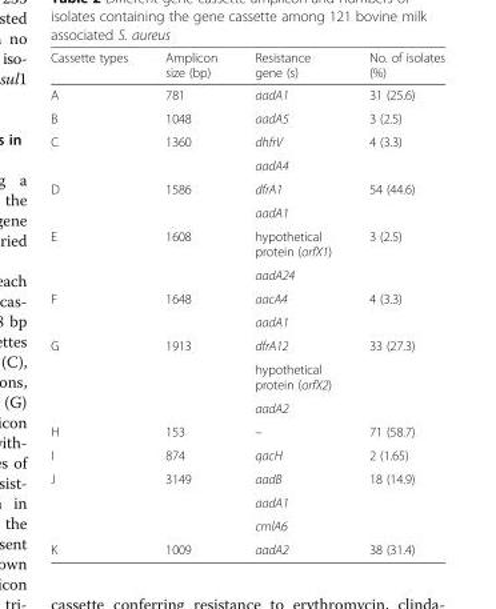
<table><thead><tr><td>Cassette types</td><td>Amplicon size (bp)</td><td>Resistance gene (s)</td><td>No. of isolates (%)</td></tr></thead><tbody><tr><td>A</td><td>781</td><td>aadA1</td><td>31 (25.6)</td></tr><tr><td>B</td><td>1048</td><td>aadA5</td><td>3 (2.5)</td></tr><tr><td rowspan="2">C</td><td rowspan="2">1360</td><td>dhfrV</td><td rowspan="2">4 (3.3)</td></tr><tr><td>aadA4</td></tr><tr><td rowspan="2">D</td><td rowspan="2">1586</td><td>dfrA1</td><td rowspan="2">54 (44.6)</td></tr><tr><td>aadA1</td></tr><tr><td rowspan="2">E</td><td rowspan="2">1608</td><td>hypothetical protein (orfX1)</td><td rowspan="2">3 (2.5)</td></tr><tr><td>aadA24</td></tr><tr><td rowspan="2">F</td><td rowspan="2">1648</td><td>aacA4</td><td rowspan="2">4 (3.3)</td></tr><tr><td>aadA1</td></tr><tr><td rowspan="3">G</td><td rowspan="3">1913</td><td>dfrA12</td><td rowspan="3">33 (27.3)</td></tr><tr><td>hypothetical protein (orfX2)</td></tr><tr><td>aadA2</td></tr><tr><td>H</td><td>153</td><td>–</td><td>71 (58.7)</td></tr><tr><td>I</td><td>874</td><td>qacH</td><td>2 (1.65)</td></tr><tr><td rowspan="3">J</td><td rowspan="3">3149</td><td>aadB</td><td rowspan="3">18 (14.9)</td></tr><tr><td>aadA1</td></tr><tr><td>cmlA6</td></tr><tr><td>K</td><td>1009</td><td>aadA2</td><td>38 (31.4)</td></tr></tbody></table>